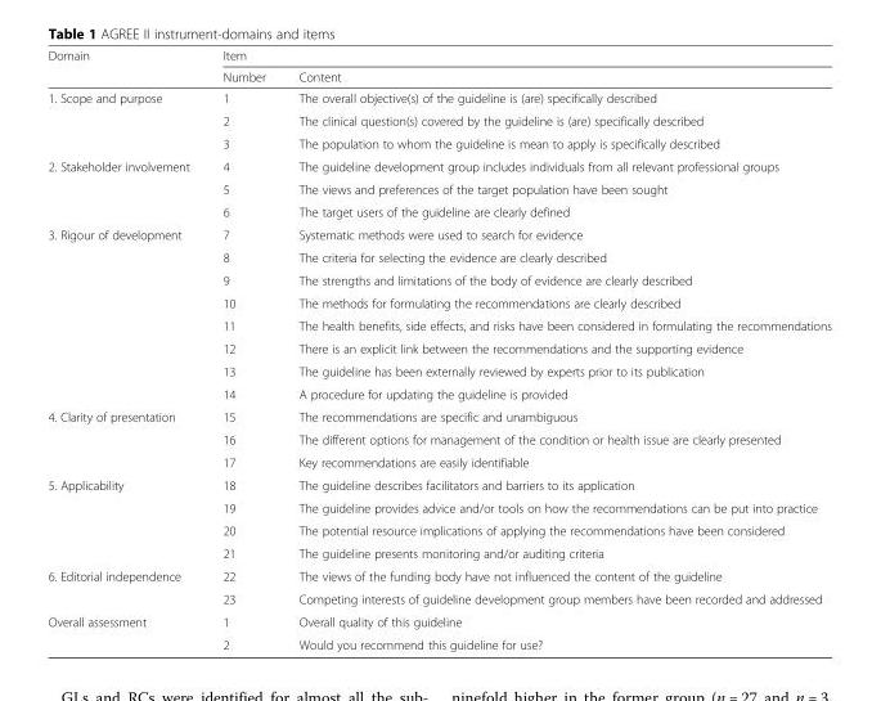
<table><thead><tr><td rowspan="2">Domain</td><td colspan="2">Item</td></tr><tr><td>Number</td><td>Content</td></tr></thead><tbody><tr><td rowspan="3">1. Scope and purpose</td><td>1</td><td>The overall objective(s) of the guideline is (are) specifically described</td></tr><tr><td>2</td><td>The clinical question(s) covered by the guideline is (are) specifically described</td></tr><tr><td>3</td><td>The population to whom the guideline is mean to apply is specifically described</td></tr><tr><td rowspan="3">2. Stakeholder involvement</td><td>4</td><td>The guideline development group includes individuals from all relevant professional groups</td></tr><tr><td>5</td><td>The views and preferences of the target population have been sought</td></tr><tr><td>6</td><td>The target users of the guideline are clearly defined</td></tr><tr><td rowspan="8">3. Rigour of development</td><td>7</td><td>Systematic methods were used to search for evidence</td></tr><tr><td>8</td><td>The criteria for selecting the evidence are clearly described</td></tr><tr><td>9</td><td>The strengths and limitations of the body of evidence are clearly described</td></tr><tr><td>10</td><td>The methods for formulating the recommendations are clearly described</td></tr><tr><td>11</td><td>The health benefits, side effects, and risks have been considered in formulating the recommendations</td></tr><tr><td>12</td><td>There is an explicit link between the recommendations and the supporting evidence</td></tr><tr><td>13</td><td>The guideline has been externally reviewed by experts prior to its publication</td></tr><tr><td>14</td><td>A procedure for updating the guideline is provided</td></tr><tr><td rowspan="3">4. Clarity of presentation</td><td>15</td><td>The recommendations are specific and unambiguous</td></tr><tr><td>16</td><td>The different options for management of the condition or health issue are clearly presented</td></tr><tr><td>17</td><td>Key recommendations are easily identifiable</td></tr><tr><td rowspan="4">5. Applicability</td><td>18</td><td>The guideline describes facilitators and barriers to its application</td></tr><tr><td>19</td><td>The guideline provides advice and/or tools on how the recommendations can be put into practice</td></tr><tr><td>20</td><td>The potential resource implications of applying the recommendations have been considered</td></tr><tr><td>21</td><td>The guideline presents monitoring and/or auditing criteria</td></tr><tr><td rowspan="2">6. Editorial independence</td><td>22</td><td>The views of the funding body have not influenced the content of the guideline</td></tr><tr><td>23</td><td>Competing interests of guideline development group members have been recorded and addressed</td></tr><tr><td rowspan="2">Overall assessment</td><td>1</td><td>Overall quality of this guideline</td></tr><tr><td>2</td><td>Would you recommend this guideline for use?</td></tr></tbody></table>